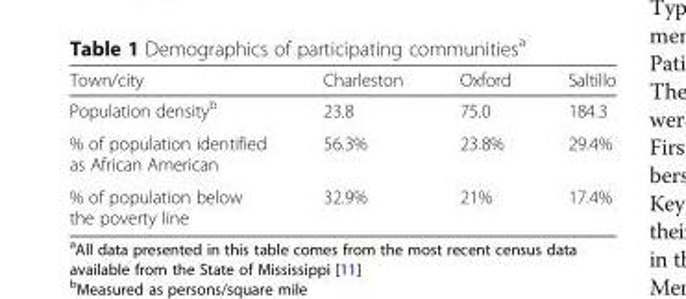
<table><thead><tr><td>Town/city</td><td>Charleston</td><td>Oxford</td><td>Saltillo</td></tr></thead><tbody><tr><td>Population density<sup>b</sup></td><td>23.8</td><td>75.0</td><td>184.3</td></tr><tr><td>% of population identified as African American</td><td>56.3%</td><td>23.8%</td><td>29.4%</td></tr><tr><td>% of population below the poverty line</td><td>32.9%</td><td>21%</td><td>17.4%</td></tr></tbody></table>